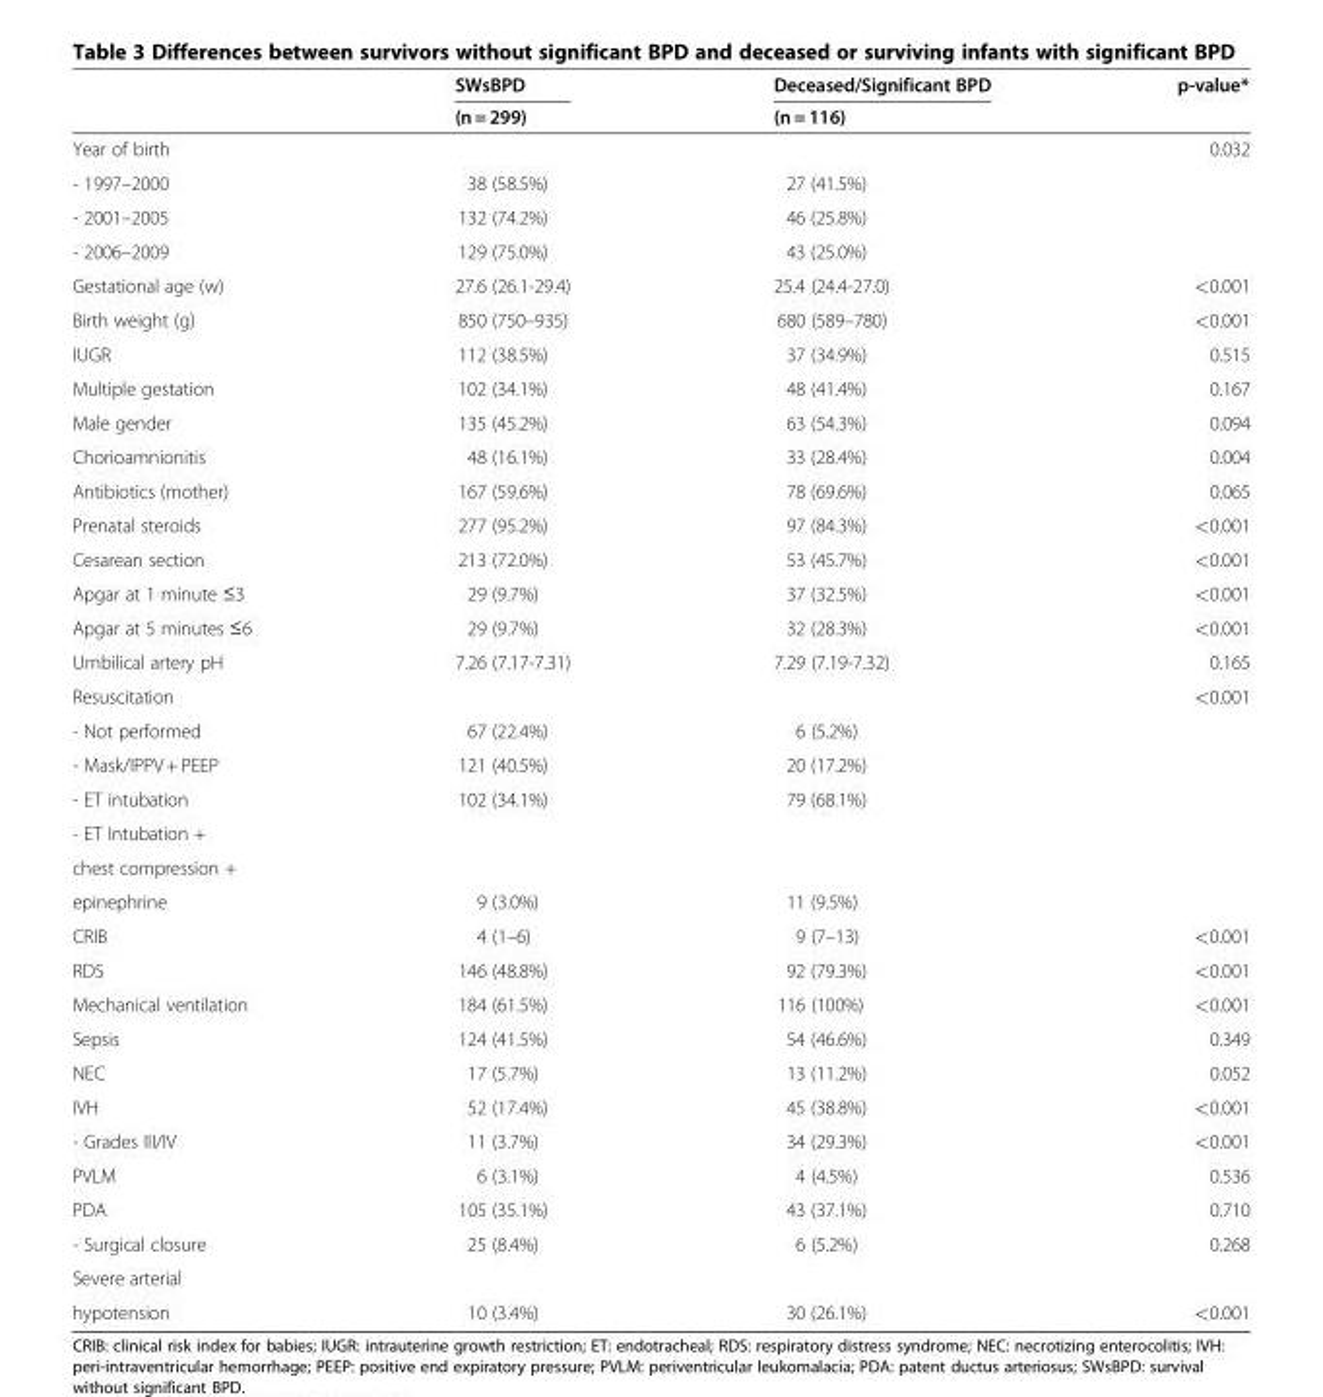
<table><thead><tr><td rowspan="2"></td><td rowspan="2">SWsBPD (n = 299)</td><td rowspan="2">Deceased/Significant BPD (n = 116)</td><td rowspan="2">p-value*</td></tr><tr></tr></thead><tbody><tr><td>Year of birth</td><td></td><td></td><td>0.032</td></tr><tr><td>- 1997–2000</td><td>38 (58.5%)</td><td>27 (41.5%)</td><td></td></tr><tr><td>- 2001–2005</td><td>132 (74.2%)</td><td>46 (25.8%)</td><td></td></tr><tr><td>- 2006–2009</td><td>129 (75.0%)</td><td>43 (25.0%)</td><td></td></tr><tr><td>Gestational age (w)</td><td>27.6 (26.1-29.4)</td><td>25.4 (24.4-27.0)</td><td>&lt;0.001</td></tr><tr><td>Birth weight (g)</td><td>850 (750–935)</td><td>680 (589–780)</td><td>&lt;0.001</td></tr><tr><td>IUGR</td><td>112 (38.5%)</td><td>37 (34.9%)</td><td>0.515</td></tr><tr><td>Multiple gestation</td><td>102 (34.1%)</td><td>48 (41.4%)</td><td>0.167</td></tr><tr><td>Male gender</td><td>135 (45.2%)</td><td>63 (54.3%)</td><td>0.094</td></tr><tr><td>Chorioamnionitis</td><td>48 (16.1%)</td><td>33 (28.4%)</td><td>0.004</td></tr><tr><td>Antibiotics (mother)</td><td>167 (59.6%)</td><td>78 (69.6%)</td><td>0.065</td></tr><tr><td>Prenatal steroids</td><td>277 (95.2%)</td><td>97 (84.3%)</td><td>&lt;0.001</td></tr><tr><td>Cesarean section</td><td>213 (72.0%)</td><td>53 (45.7%)</td><td>&lt;0.001</td></tr><tr><td>Apgar at 1 minute ≤3</td><td>29 (9.7%)</td><td>37 (32.5%)</td><td>&lt;0.001</td></tr><tr><td>Apgar at 5 minutes ≤6</td><td>29 (9.7%)</td><td>32 (28.3%)</td><td>&lt;0.001</td></tr><tr><td>Umbilical artery pH</td><td>7.26 (7.17-7.31)</td><td>7.29 (7.19-7.32)</td><td>0.165</td></tr><tr><td>Resuscitation</td><td></td><td></td><td>&lt;0.001</td></tr><tr><td>- Not performed</td><td>67 (22.4%)</td><td>6 (5.2%)</td><td></td></tr><tr><td>- Mask/IPPV + PEEP</td><td>121 (40.5%)</td><td>20 (17.2%)</td><td></td></tr><tr><td>- ET intubation</td><td>102 (34.1%)</td><td>79 (68.1%)</td><td></td></tr><tr><td colspan="4">- ET Intubation +</td></tr><tr><td colspan="4">chest compression +</td></tr><tr><td>epinephrine</td><td>9 (3.0%)</td><td>11 (9.5%)</td><td></td></tr><tr><td>CRIB</td><td>4 (1–6)</td><td>9 (7–13)</td><td>&lt;0.001</td></tr><tr><td>RDS</td><td>146 (48.8%)</td><td>92 (79.3%)</td><td>&lt;0.001</td></tr><tr><td>Mechanical ventilation</td><td>184 (61.5%)</td><td>116 (100%)</td><td>&lt;0.001</td></tr><tr><td>Sepsis</td><td>124 (41.5%)</td><td>54 (46.6%)</td><td>0.349</td></tr><tr><td>NEC</td><td>17 (5.7%)</td><td>13 (11.2%)</td><td>0.052</td></tr><tr><td>IVH</td><td>52 (17.4%)</td><td>45 (38.8%)</td><td>&lt;0.001</td></tr><tr><td>- Grades III/IV</td><td>11 (3.7%)</td><td>34 (29.3%)</td><td>&lt;0.001</td></tr><tr><td>PVLM</td><td>6 (3.1%)</td><td>4 (4.5%)</td><td>0.536</td></tr><tr><td>PDA</td><td>105 (35.1%)</td><td>43 (37.1%)</td><td>0.710</td></tr><tr><td>- Surgical closure</td><td>25 (8.4%)</td><td>6 (5.2%)</td><td>0.268</td></tr><tr><td colspan="4">Severe arterial</td></tr><tr><td>hypotension</td><td>10 (3.4%)</td><td>30 (26.1%)</td><td>&lt;0.001</td></tr></tbody></table>